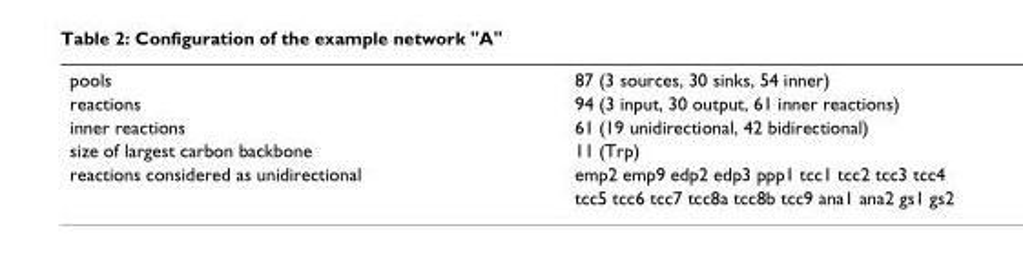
<table><tbody><tr><td>pools</td><td>87 (3 sources, 30 sinks, 54 inner)</td></tr><tr><td>reactions</td><td>94 (3 input, 30 output, 61 inner reactions)</td></tr><tr><td>inner reactions</td><td>61 (19 unidirectional, 42 bidirectional)</td></tr><tr><td>size of largest carbon backbone</td><td>11 (Trp)</td></tr><tr><td rowspan="2">reactions considered as unidirectional</td><td>emp2 emp9 edp2 edp3 ppp1 tcc1 tcc2 tcc3 tcc4</td></tr><tr><td>tcc5 tcc6 tcc7 tcc8a tcc8b tcc9 ana1 ana2 gs1 gs2</td></tr></tbody></table>